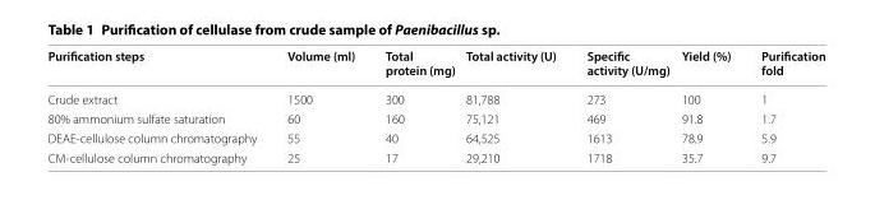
<table><thead><tr><td>Purification steps</td><td>Volume (ml)</td><td>Total protein (mg)</td><td>Total activity (U)</td><td>Specific activity (U/mg)</td><td>Yield (%)</td><td>Purification fold</td></tr></thead><tbody><tr><td>Crude extract</td><td>1500</td><td>300</td><td>81,788</td><td>273</td><td>100</td><td>1</td></tr><tr><td>80% ammonium sulfate saturation</td><td>60</td><td>160</td><td>75,121</td><td>469</td><td>91.8</td><td>1.7</td></tr><tr><td>DEAE-cellulose column chromatography</td><td>55</td><td>40</td><td>64,525</td><td>1613</td><td>78.9</td><td>5.9</td></tr><tr><td>CM-cellulose column chromatography</td><td>25</td><td>17</td><td>29,210</td><td>1718</td><td>35.7</td><td>9.7</td></tr></tbody></table>